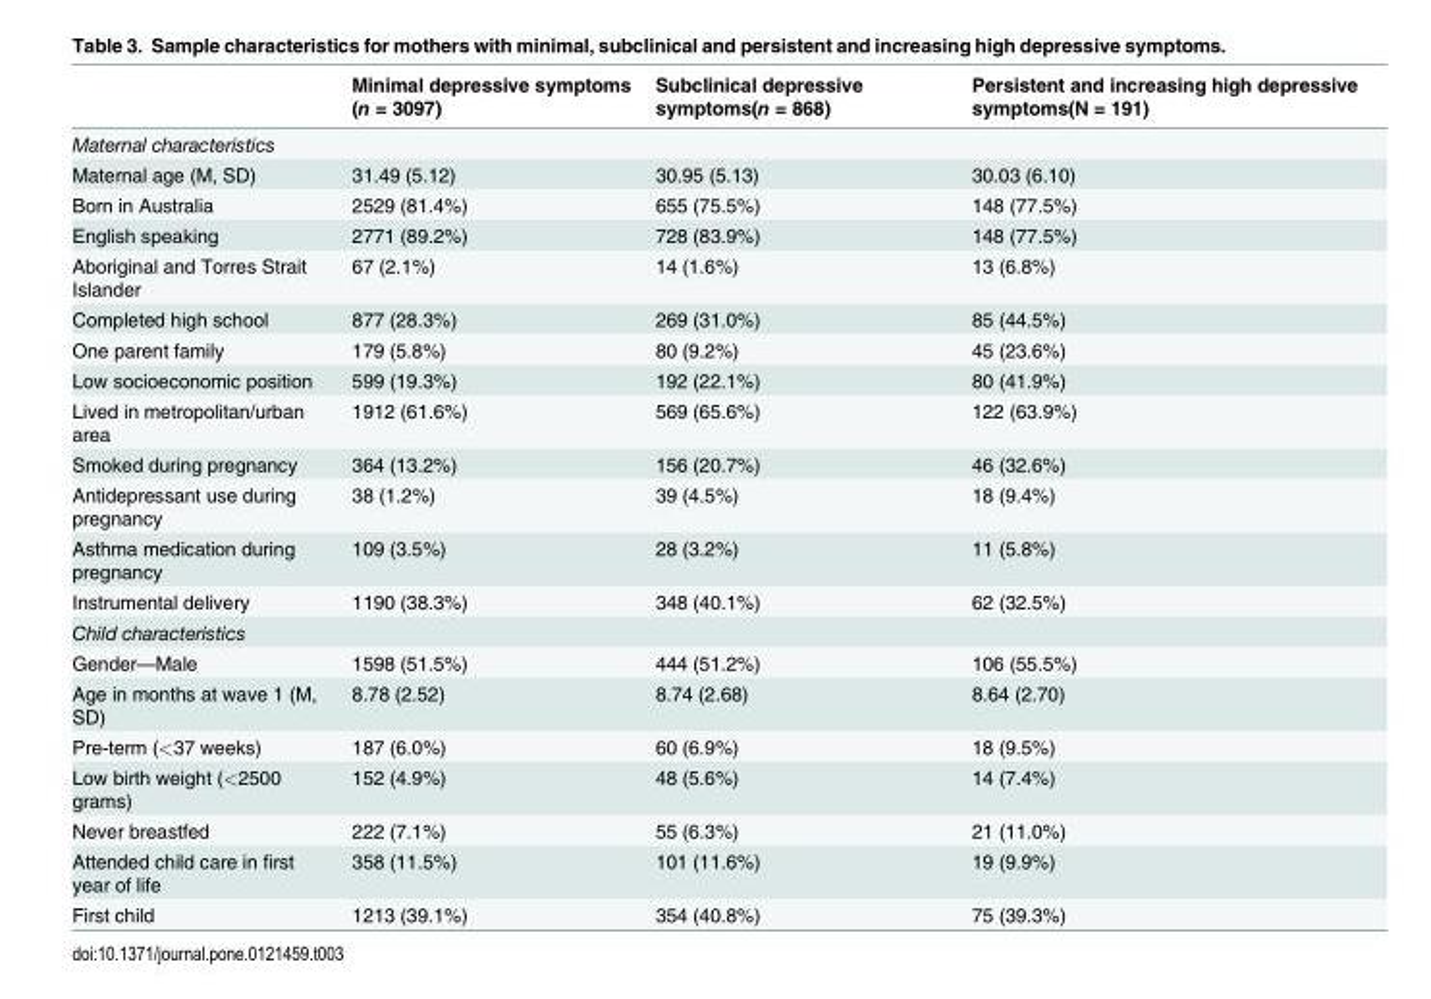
<table><thead><tr><td></td><td>Minimal depressive symptoms (n = 3097)</td><td>Subclinical depressive symptoms(n = 868)</td><td>Persistent and increasing high depressive symptoms(N = 191)</td></tr></thead><tbody><tr><td colspan="4">Maternal characteristics</td></tr><tr><td>Maternal age (M, SD)</td><td>31.49 (5.12)</td><td>30.95 (5.13)</td><td>30.03 (6.10)</td></tr><tr><td>Born in Australia</td><td>2529 (81.4%)</td><td>655 (75.5%)</td><td>148 (77.5%)</td></tr><tr><td>English speaking</td><td>2771 (89.2%)</td><td>728 (83.9%)</td><td>148 (77.5%)</td></tr><tr><td>Aboriginal and Torres Strait Islander</td><td>67 (2.1%)</td><td>14 (1.6%)</td><td>13 (6.8%)</td></tr><tr><td>Completed high school</td><td>877 (28.3%)</td><td>269 (31.0%)</td><td>85 (44.5%)</td></tr><tr><td>One parent family</td><td>179 (5.8%)</td><td>80 (9.2%)</td><td>45 (23.6%)</td></tr><tr><td>Low socioeconomic position</td><td>599 (19.3%)</td><td>192 (22.1%)</td><td>80 (41.9%)</td></tr><tr><td>Lived in metropolitan/urban area</td><td>1912 (61.6%)</td><td>569 (65.6%)</td><td>122 (63.9%)</td></tr><tr><td>Smoked during pregnancy</td><td>364 (13.2%)</td><td>156 (20.7%)</td><td>46 (32.6%)</td></tr><tr><td>Antidepressant use during pregnancy</td><td>38 (1.2%)</td><td>39 (4.5%)</td><td>18 (9.4%)</td></tr><tr><td>Asthma medication during pregnancy</td><td>109 (3.5%)</td><td>28 (3.2%)</td><td>11 (5.8%)</td></tr><tr><td>Instrumental delivery</td><td>1190 (38.3%)</td><td>348 (40.1%)</td><td>62 (32.5%)</td></tr><tr><td colspan="4">Child characteristics</td></tr><tr><td>Gender—Male</td><td>1598 (51.5%)</td><td>444 (51.2%)</td><td>106 (55.5%)</td></tr><tr><td>Age in months at wave 1 (M, SD)</td><td>8.78 (2.52)</td><td>8.74 (2.68)</td><td>8.64 (2.70)</td></tr><tr><td>Pre-term (&lt;37 weeks)</td><td>187 (6.0%)</td><td>60 (6.9%)</td><td>18 (9.5%)</td></tr><tr><td>Low birth weight (&lt;2500 grams)</td><td>152 (4.9%)</td><td>48 (5.6%)</td><td>14 (7.4%)</td></tr><tr><td>Never breastfed</td><td>222 (7.1%)</td><td>55 (6.3%)</td><td>21 (11.0%)</td></tr><tr><td>Attended child care in first year of life</td><td>358 (11.5%)</td><td>101 (11.6%)</td><td>19 (9.9%)</td></tr><tr><td>First child</td><td>1213 (39.1%)</td><td>354 (40.8%)</td><td>75 (39.3%)</td></tr></tbody></table>